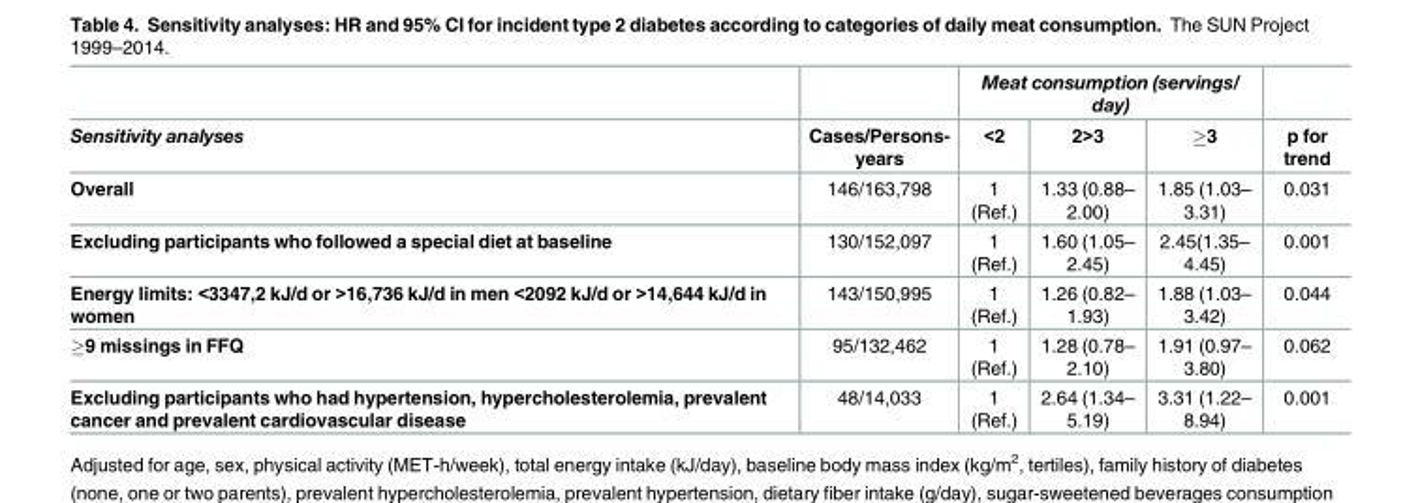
<table><thead><tr><td rowspan="2">Sensitivity analyses</td><td rowspan="2">Cases/Persons- years</td><td colspan="3">Meat consumption (servings/ day)</td><td rowspan="2">p for trend</td></tr><tr><td>&lt;2</td><td>2&gt;3</td><td>≥3</td></tr></thead><tbody><tr><td>Overall</td><td>146/163,798</td><td>1 (Ref.)</td><td>1.33 (0.88– 2.00)</td><td>1.85 (1.03– 3.31)</td><td>0.031</td></tr><tr><td>Excluding participants who followed a special diet at baseline</td><td>130/152,097</td><td>1 (Ref.)</td><td>1.60 (1.05– 2.45)</td><td>2.45(1.35– 4.45)</td><td>0.001</td></tr><tr><td>Energy limits: &lt;3347,2 kJ/d or &gt;16,736 kJ/d in men &lt;2092 kJ/d or &gt;14,644 kJ/d in women</td><td>143/150,995</td><td>1 (Ref.)</td><td>1.26 (0.82– 1.93)</td><td>1.88 (1.03– 3.42)</td><td>0.044</td></tr><tr><td>≥9 missings in FFQ</td><td>95/132,462</td><td>1 (Ref.)</td><td>1.28 (0.78– 2.10)</td><td>1.91 (0.97– 3.80)</td><td>0.062</td></tr><tr><td>Excluding participants who had hypertension, hypercholesterolemia, prevalent cancer and prevalent cardiovascular disease</td><td>48/14,033</td><td>1 (Ref.)</td><td>2.64 (1.34– 5.19)</td><td>3.31 (1.22– 8.94)</td><td>0.001</td></tr></tbody></table>